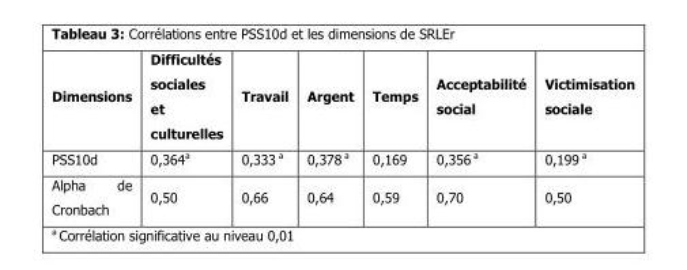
<table><thead><tr><td>Dimensions</td><td>Difficultés sociales et culturelles</td><td>Travail</td><td>Argent</td><td>Temps</td><td>Acceptabilité social</td><td>Victimisation sociale</td></tr></thead><tbody><tr><td>PSS10d</td><td>0,364<sup>a</sup></td><td>0,333 <sup>a</sup></td><td>0,378 <sup>a</sup></td><td>0,169</td><td>0,356 <sup>a</sup></td><td>0,199 <sup>a</sup></td></tr><tr><td>Alpha de Cronbach</td><td>0,50</td><td>0,66</td><td>0,64</td><td>0,59</td><td>0,70</td><td>0,50</td></tr></tbody></table>